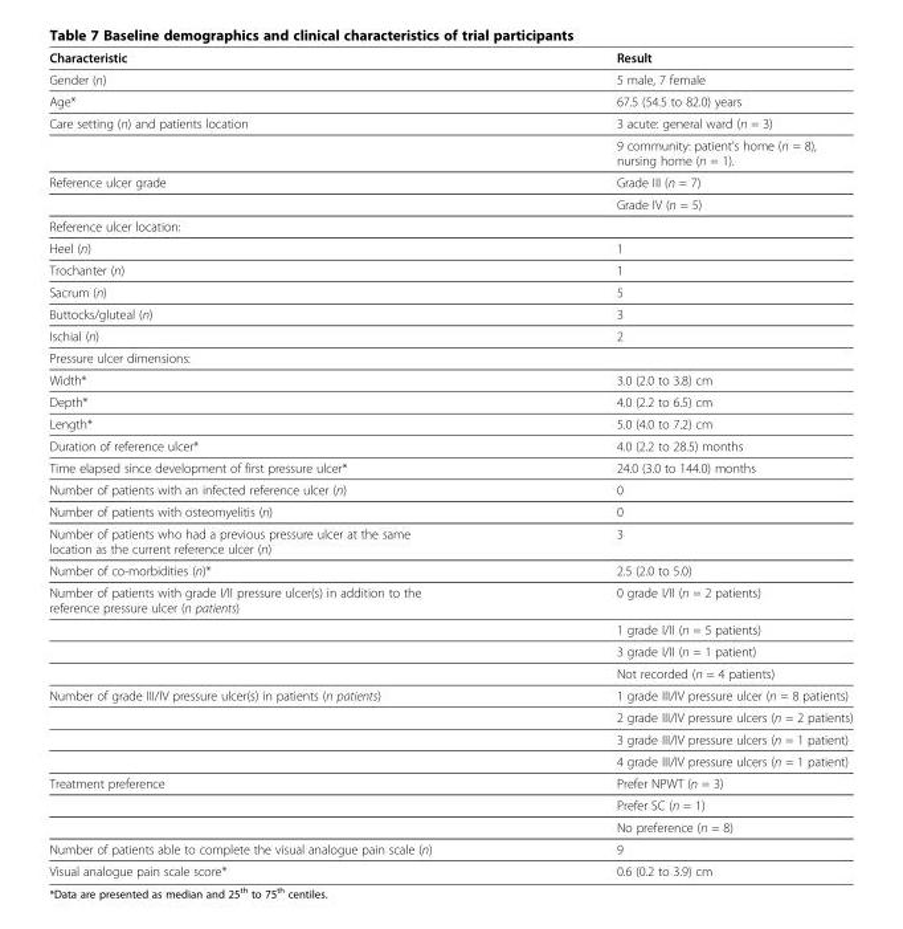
<table><thead><tr><td>Characteristic</td><td>Result</td></tr></thead><tbody><tr><td>Gender (n)</td><td>5 male, 7 female</td></tr><tr><td>Age*</td><td>67.5 (54.5 to 82.0) years</td></tr><tr><td rowspan="2">Care setting (n) and patients location</td><td>3 acute: general ward (n = 3)</td></tr><tr><td>9 community: patient’s home (n = 8), nursing home (n = 1).</td></tr><tr><td rowspan="2">Reference ulcer grade</td><td>Grade III (n = 7)</td></tr><tr><td>Grade IV (n = 5)</td></tr><tr><td colspan="2">Reference ulcer location:</td></tr><tr><td>Heel (n)</td><td>1</td></tr><tr><td>Trochanter (n)</td><td>1</td></tr><tr><td>Sacrum (n)</td><td>5</td></tr><tr><td>Buttocks/gluteal (n)</td><td>3</td></tr><tr><td>Ischial (n)</td><td>2</td></tr><tr><td colspan="2">Pressure ulcer dimensions:</td></tr><tr><td>Width*</td><td>3.0 (2.0 to 3.8) cm</td></tr><tr><td>Depth*</td><td>4.0 (2.2 to 6.5) cm</td></tr><tr><td>Length*</td><td>5.0 (4.0 to 7.2) cm</td></tr><tr><td>Duration of reference ulcer*</td><td>4.0 (2.2 to 28.5) months</td></tr><tr><td>Time elapsed since development of first pressure ulcer*</td><td>24.0 (3.0 to 144.0) months</td></tr><tr><td>Number of patients with an infected reference ulcer (n)</td><td>0</td></tr><tr><td>Number of patients with osteomyelitis (n)</td><td>0</td></tr><tr><td>Number of patients who had a previous pressure ulcer at the same location as the current reference ulcer (n)</td><td>3</td></tr><tr><td>Number of co-morbidities (n)*</td><td>2.5 (2.0 to 5.0)</td></tr><tr><td rowspan="4">Number of patients with grade I/II pressure ulcer(s) in addition to the reference pressure ulcer (n patients)</td><td>0 grade I/II (n = 2 patients)</td></tr><tr><td>1 grade I/II (n = 5 patients)</td></tr><tr><td>3 grade I/II (n = 1 patient)</td></tr><tr><td>Not recorded (n = 4 patients)</td></tr><tr><td rowspan="4">Number of grade III/IV pressure ulcer(s) in patients (n patients)</td><td>1 grade III/IV pressure ulcer (n = 8 patients)</td></tr><tr><td>2 grade III/IV pressure ulcers (n = 2 patients)</td></tr><tr><td>3 grade III/IV pressure ulcers (n = 1 patient)</td></tr><tr><td>4 grade III/IV pressure ulcers (n = 1 patient)</td></tr><tr><td rowspan="3">Treatment preference</td><td>Prefer NPWT (n = 3)</td></tr><tr><td>Prefer SC (n = 1)</td></tr><tr><td>No preference (n = 8)</td></tr><tr><td>Number of patients able to complete the visual analogue pain scale (n)</td><td>9</td></tr><tr><td>Visual analogue pain scale score*</td><td>0.6 (0.2 to 3.9) cm</td></tr></tbody></table>